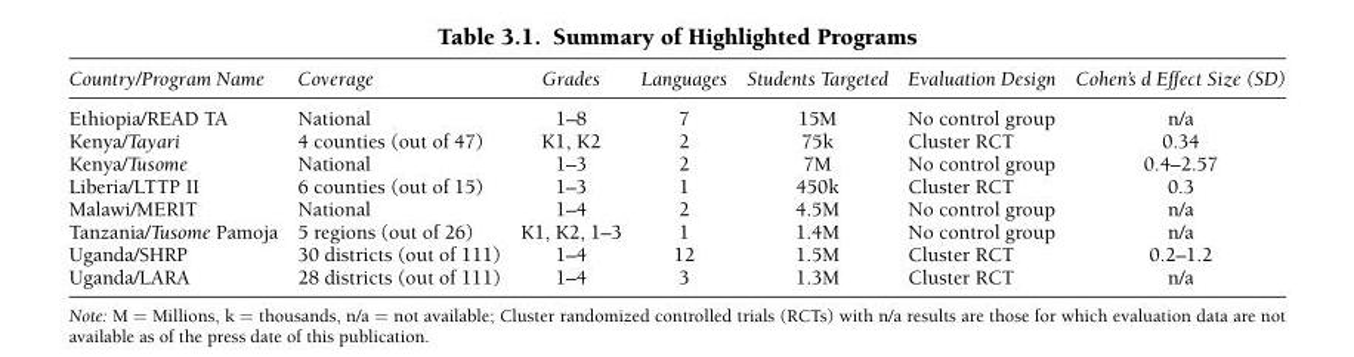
<table><thead><tr><td>Country/Program Name</td><td>Coverage</td><td>Grades</td><td>Languages</td><td>Students Targeted</td><td>Evaluation Design</td><td>Cohen’s d Effect Size (SD)</td></tr></thead><tbody><tr><td>Ethiopia/READ TA</td><td>National</td><td>1–8</td><td>7</td><td>15M</td><td>No control group</td><td>n/a</td></tr><tr><td>Kenya/Tayari</td><td>4 counties (out of 47)</td><td>K1, K2</td><td>2</td><td>75k</td><td>Cluster RCT</td><td>0.34</td></tr><tr><td>Kenya/Tusome</td><td>National</td><td>1–3</td><td>2</td><td>7M</td><td>No control group</td><td>0.4–2.57</td></tr><tr><td>Liberia/LTTP II</td><td>6 counties (out of 15)</td><td>1–3</td><td>1</td><td>450k</td><td>Cluster RCT</td><td>0.3</td></tr><tr><td>Malawi/MERIT</td><td>National</td><td>1–4</td><td>2</td><td>4.5M</td><td>No control group</td><td>n/a</td></tr><tr><td>Tanzania/Tusome Pamoja</td><td>5 regions (out of 26)</td><td>K1, K2, 1–3</td><td>1</td><td>1.4M</td><td>No control group</td><td>n/a</td></tr><tr><td>Uganda/SHRP</td><td>30 districts (out of 111)</td><td>1–4</td><td>12</td><td>1.5M</td><td>Cluster RCT</td><td>0.2–1.2</td></tr><tr><td>Uganda/LARA</td><td>28 districts (out of 111)</td><td>1–4</td><td>3</td><td>1.3M</td><td>Cluster RCT</td><td>n/a</td></tr></tbody></table>